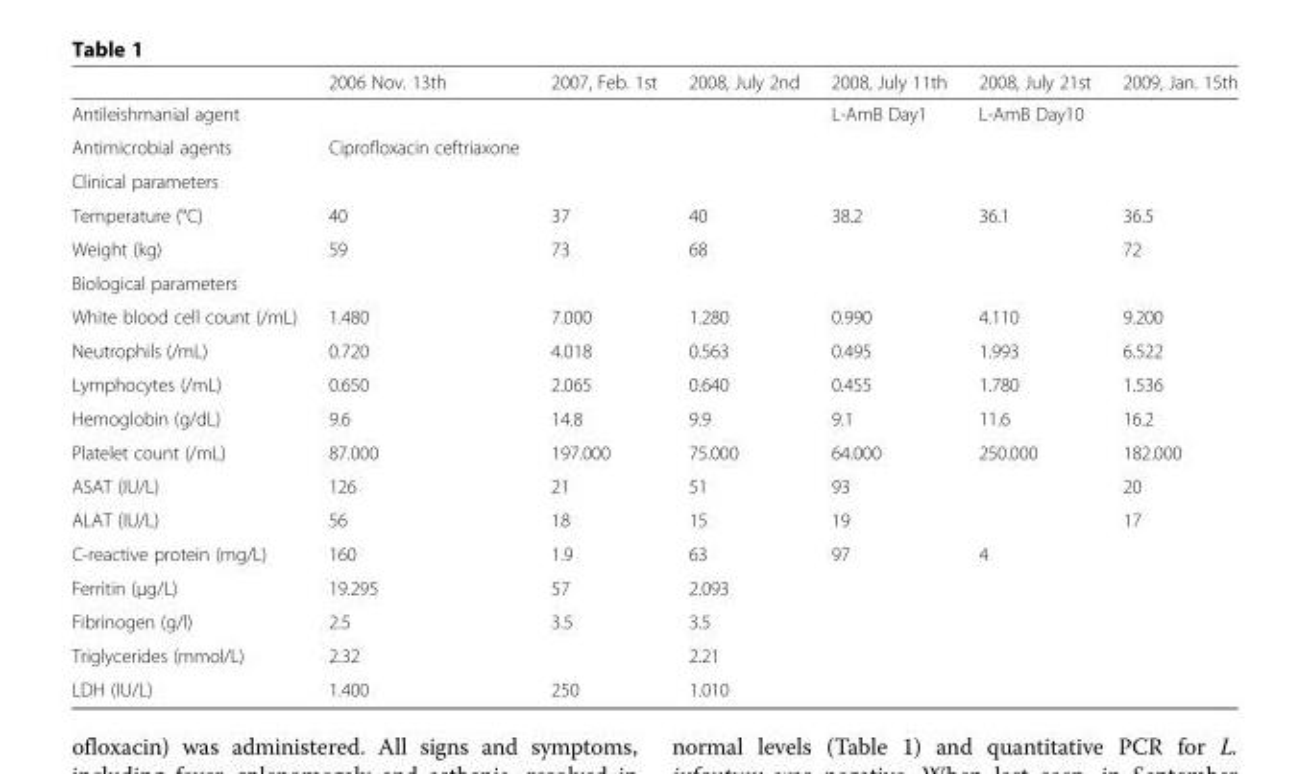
<table><thead><tr><td></td><td>2006 Nov. 13th</td><td>2007, Feb. 1st</td><td>2008, July 2nd</td><td>2008, July 11th</td><td>2008, July 21st</td><td>2009, Jan. 15th</td></tr></thead><tbody><tr><td>Antileishmanial agent</td><td></td><td></td><td></td><td>L-AmB Day1</td><td>L-AmB Day10</td><td></td></tr><tr><td>Antimicrobial agents</td><td>Ciprofloxacin ceftriaxone</td><td></td><td></td><td></td><td></td><td></td></tr><tr><td colspan="7">Clinical parameters</td></tr><tr><td>Temperature (°C)</td><td>40</td><td>37</td><td>40</td><td>38.2</td><td>36.1</td><td>36.5</td></tr><tr><td>Weight (kg)</td><td>59</td><td>73</td><td>68</td><td></td><td></td><td>72</td></tr><tr><td colspan="7">Biological parameters</td></tr><tr><td>White blood cell count (/mL)</td><td>1.480</td><td>7.000</td><td>1.280</td><td>0.990</td><td>4.110</td><td>9.200</td></tr><tr><td>Neutrophils (/mL)</td><td>0.720</td><td>4.018</td><td>0.563</td><td>0.495</td><td>1.993</td><td>6.522</td></tr><tr><td>Lymphocytes (/mL)</td><td>0.650</td><td>2.065</td><td>0.640</td><td>0.455</td><td>1.780</td><td>1.536</td></tr><tr><td>Hemoglobin (g/dL)</td><td>9.6</td><td>14.8</td><td>9.9</td><td>9.1</td><td>11.6</td><td>16.2</td></tr><tr><td>Platelet count (/mL)</td><td>87.000</td><td>197.000</td><td>75.000</td><td>64.000</td><td>250.000</td><td>182.000</td></tr><tr><td>ASAT (IU/L)</td><td>126</td><td>21</td><td>51</td><td>93</td><td></td><td>20</td></tr><tr><td>ALAT (IU/L)</td><td>56</td><td>18</td><td>15</td><td>19</td><td></td><td>17</td></tr><tr><td>C-reactive protein (mg/L)</td><td>160</td><td>1.9</td><td>63</td><td>97</td><td>4</td><td></td></tr><tr><td>Ferritin (μg/L)</td><td>19.295</td><td>57</td><td>2.093</td><td></td><td></td><td></td></tr><tr><td>Fibrinogen (g/l)</td><td>2.5</td><td>3.5</td><td>3.5</td><td></td><td></td><td></td></tr><tr><td>Triglycerides (mmol/L)</td><td>2.32</td><td></td><td>2.21</td><td></td><td></td><td></td></tr><tr><td>LDH (IU/L)</td><td>1.400</td><td>250</td><td>1.010</td><td></td><td></td><td></td></tr></tbody></table>